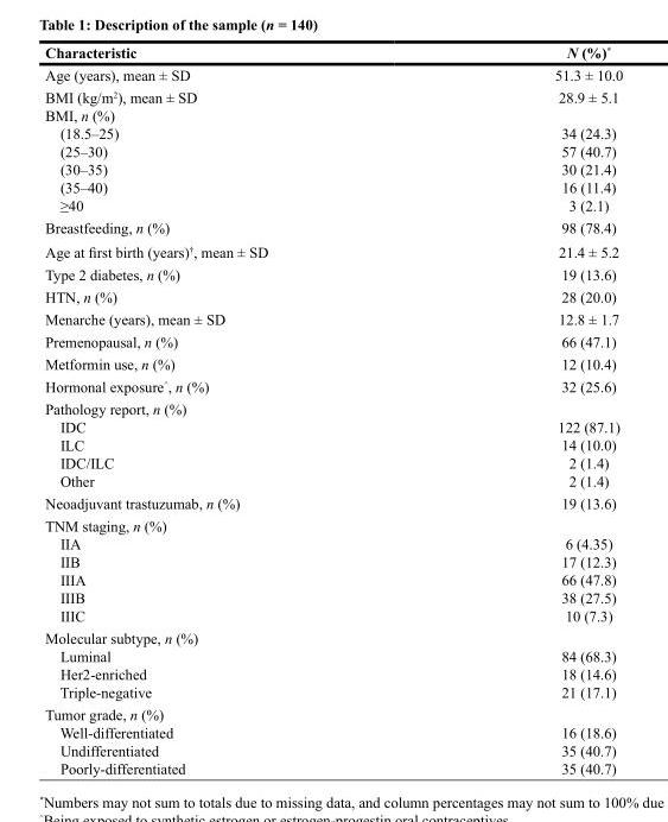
<table><thead><tr><td>Characteristic</td><td>N (%)*</td></tr></thead><tbody><tr><td>Age (years), mean ± SD</td><td>51.3 ± 10.0</td></tr><tr><td>BMI (kg/m<sup>2</sup>), mean ± SD</td><td>28.9 ± 5.1</td></tr><tr><td>BMI, n (%) (18.5–25) (25–30) (30–35) (35–40) ≥40</td><td>34 (24.3) 57 (40.7) 30 (21.4) 16 (11.4) 3 (2.1)</td></tr><tr><td>Breastfeeding, n (%)</td><td>98 (78.4)</td></tr><tr><td>Age at first birth (years)<sup>†</sup>, mean ± SD</td><td>21.4 ± 5.2</td></tr><tr><td>Type 2 diabetes, n (%)</td><td>19 (13.6)</td></tr><tr><td>HTN, n (%)</td><td>28 (20.0)</td></tr><tr><td>Menarche (years), mean ± SD</td><td>12.8 ± 1.7</td></tr><tr><td>Premenopausal, n (%)</td><td>66 (47.1)</td></tr><tr><td>Metformin use, n (%)</td><td>12 (10.4)</td></tr><tr><td>Hormonal exposure<sup>^</sup>, n (%)</td><td>32 (25.6)</td></tr><tr><td>Pathology report, n (%) IDC ILC IDC/ILC Other</td><td>122 (87.1) 14 (10.0) 2 (1.4) 2 (1.4)</td></tr><tr><td>Neoadjuvant trastuzumab, n (%)</td><td>19 (13.6)</td></tr><tr><td>TNM staging, n (%) IIA IIB IIIA IIIB IIIC</td><td>6 (4.35) 17 (12.3) 66 (47.8) 38 (27.5) 10 (7.3)</td></tr><tr><td>Molecular subtype, n (%) Luminal Her2-enriched Triple-negative</td><td>84 (68.3) 18 (14.6) 21 (17.1)</td></tr><tr><td>Tumor grade, n (%) Well-differentiated Undifferentiated Poorly-differentiated</td><td>16 (18.6) 35 (40.7) 35 (40.7)</td></tr></tbody></table>